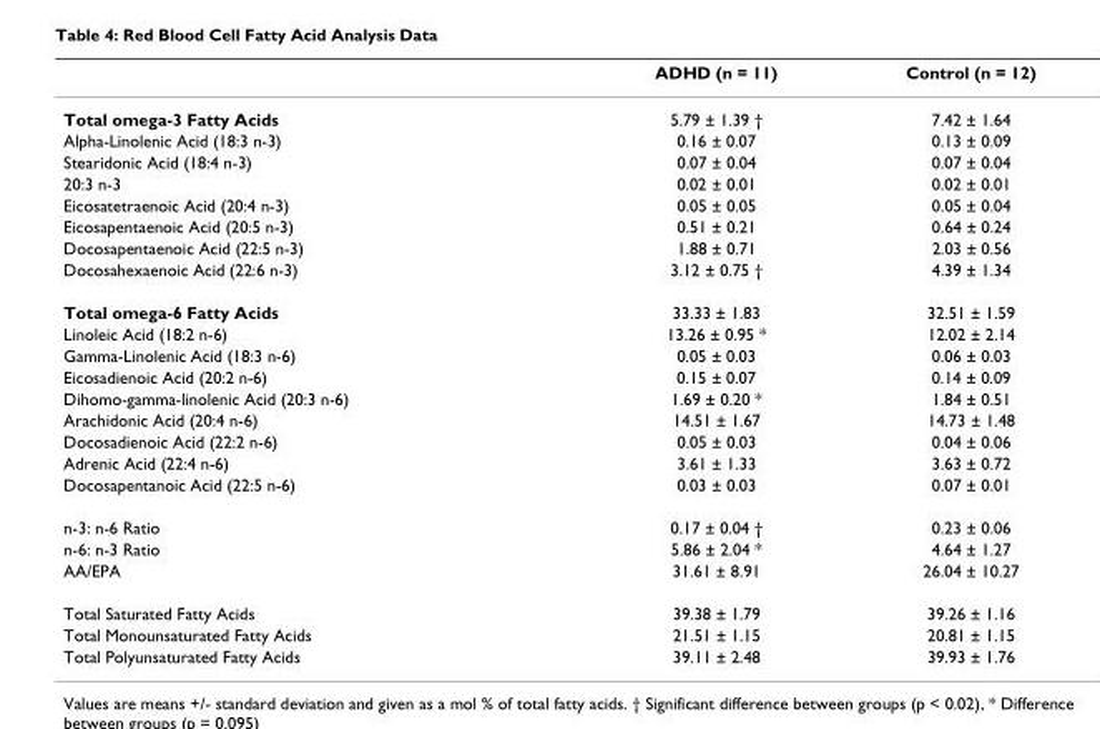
<table><thead><tr><td></td><td>ADHD (n = 11)</td><td>Control (n = 12)</td></tr></thead><tbody><tr><td>Total omega-3 Fatty Acids</td><td>5.79 ± 1.39 †</td><td>7.42 ± 1.64</td></tr><tr><td>Alpha-Linolenic Acid (18:3 n-3)</td><td>0.16 ± 0.07</td><td>0.13 ± 0.09</td></tr><tr><td>Stearidonic Acid (18:4 n-3)</td><td>0.07 ± 0.04</td><td>0.07 ± 0.04</td></tr><tr><td>20:3 n-3</td><td>0.02 ± 0.01</td><td>0.02 ± 0.01</td></tr><tr><td>Eicosatetraenoic Acid (20:4 n-3)</td><td>0.05 ± 0.05</td><td>0.05 ± 0.04</td></tr><tr><td>Eicosapentaenoic Acid (20:5 n-3)</td><td>0.51 ± 0.21</td><td>0.64 ± 0.24</td></tr><tr><td>Docosapentaenoic Acid (22:5 n-3)</td><td>1.88 ± 0.71</td><td>2.03 ± 0.56</td></tr><tr><td>Docosahexaenoic Acid (22:6 n-3)</td><td>3.12 ± 0.75 †</td><td>4.39 ± 1.34</td></tr><tr><td>Total omega-6 Fatty Acids</td><td>33.33 ± 1.83</td><td>32.51 ± 1.59</td></tr><tr><td>Linoleic Acid (18:2 n-6)</td><td>13.26 ± 0.95 *</td><td>12.02 ± 2.14</td></tr><tr><td>Gamma-Linolenic Acid (18:3 n-6)</td><td>0.05 ± 0.03</td><td>0.06 ± 0.03</td></tr><tr><td>Eicosadienoic Acid (20:2 n-6)</td><td>0.15 ± 0.07</td><td>0.14 ± 0.09</td></tr><tr><td>Dihomo-gamma-linolenic Acid (20:3 n-6)</td><td>1.69 ± 0.20 *</td><td>1.84 ± 0.51</td></tr><tr><td>Arachidonic Acid (20:4 n-6)</td><td>14.51 ± 1.67</td><td>14.73 ± 1.48</td></tr><tr><td>Docosadienoic Acid (22:2 n-6)</td><td>0.05 ± 0.03</td><td>0.04 ± 0.06</td></tr><tr><td>Adrenic Acid (22:4 n-6)</td><td>3.61 ± 1.33</td><td>3.63 ± 0.72</td></tr><tr><td>Docosapentanoic Acid (22:5 n-6)</td><td>0.03 ± 0.03</td><td>0.07 ± 0.01</td></tr><tr><td>n-3: n-6 Ratio</td><td>0.17 ± 0.04 †</td><td>0.23 ± 0.06</td></tr><tr><td>n-6: n-3 Ratio</td><td>5.86 ± 2.04 *</td><td>4.64 ± 1.27</td></tr><tr><td>AA/EPA</td><td>31.61 ± 8.91</td><td>26.04 ± 10.27</td></tr><tr><td>Total Saturated Fatty Acids</td><td>39.38 ± 1.79</td><td>39.26 ± 1.16</td></tr><tr><td>Total Monounsaturated Fatty Acids</td><td>21.51 ± 1.15</td><td>20.81 ± 1.15</td></tr><tr><td>Total Polyunsaturated Fatty Acids</td><td>39.11 ± 2.48</td><td>39.93 ± 1.76</td></tr></tbody></table>